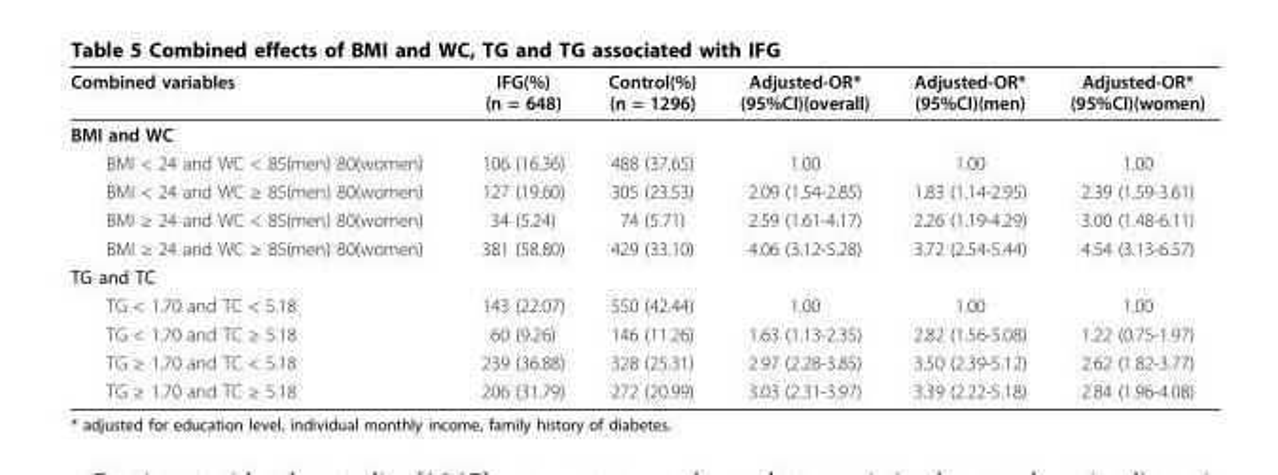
<table><thead><tr><td>Combined variables</td><td>IFG(%) (n = 648)</td><td>Control(%) (n = 1296)</td><td>Adjusted-OR* (95%CI)(overall)</td><td>Adjusted-OR* (95%CI)(men)</td><td>Adjusted-OR* (95%CI)(women)</td></tr></thead><tbody><tr><td colspan="6">BMI and WC</td></tr><tr><td>BMI &lt; 24 and WC &lt; 85(men) 80(women)</td><td>106 (16.36)</td><td>488 (37.65)</td><td>1.00</td><td>1.00</td><td>1.00</td></tr><tr><td>BMI &lt; 24 and WC ≥ 85(men) 80(women)</td><td>127 (19.60)</td><td>305 (23.53)</td><td>2.09 (1.54-2.85)</td><td>1.83 (1.14-2.95)</td><td>2.39 (1.59-3.61)</td></tr><tr><td>BMI ≥ 24 and WC &lt; 85(men) 80(women)</td><td>34 (5.24)</td><td>74 (5.71)</td><td>2.59 (1.61-4.17)</td><td>2.26 (1.19-4.29)</td><td>3.00 (1.48-6.11)</td></tr><tr><td>BMI ≥ 24 and WC ≥ 85(men) 80(women)</td><td>381 (58.80)</td><td>429 (33.10)</td><td>4.06 (3.12-5.28)</td><td>3.72 (2.54-5.44)</td><td>4.54 (3.13-6.57)</td></tr><tr><td colspan="6">TG and TC</td></tr><tr><td>TG &lt; 1.70 and TC &lt; 5.18</td><td>143 (22.07)</td><td>550 (42.44)</td><td>1.00</td><td>1.00</td><td>1.00</td></tr><tr><td>TG &lt; 1.70 and TC ≥ 5.18</td><td>60 (9.26)</td><td>146 (11.26)</td><td>1.63 (1.13-2.35)</td><td>2.82 (1.56-5.08)</td><td>1.22 (0.75-1.97)</td></tr><tr><td>TG ≥ 1.70 and TC &lt; 5.18</td><td>239 (36.88)</td><td>328 (25.31)</td><td>2.97 (2.28-3.85)</td><td>3.50 (2.39-5.12)</td><td>2.62 (1.82-3.77)</td></tr><tr><td>TG ≥ 1.70 and TC ≥ 5.18</td><td>206 (31.79)</td><td>272 (20.99)</td><td>3.03 (2.31-3.97)</td><td>3.39 (2.22-5.18)</td><td>2.84 (1.96-4.08)</td></tr></tbody></table>